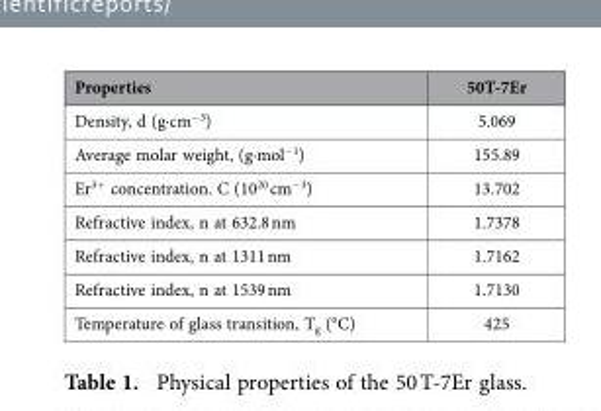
<table><thead><tr><td>Properties</td><td>50T-7Er</td></tr></thead><tbody><tr><td>Density, d (g·cm<sup>−3</sup>)</td><td>5.069</td></tr><tr><td>Average molar weight, (g·mol<sup>−1</sup>)</td><td>155.89</td></tr><tr><td>Er<sup>3+</sup> concentration. C (10<sup>20</sup> cm<sup>−3</sup>)</td><td>13.702</td></tr><tr><td>Refractive index, n at 632.8 nm</td><td>1.7378</td></tr><tr><td>Refractive index, n at 1311 nm</td><td>1.7162</td></tr><tr><td>Refractive index, n at 1539 nm</td><td>1.7130</td></tr><tr><td>Temperature of glass transition, T<sub>g</sub> (°C)</td><td>425</td></tr></tbody></table>